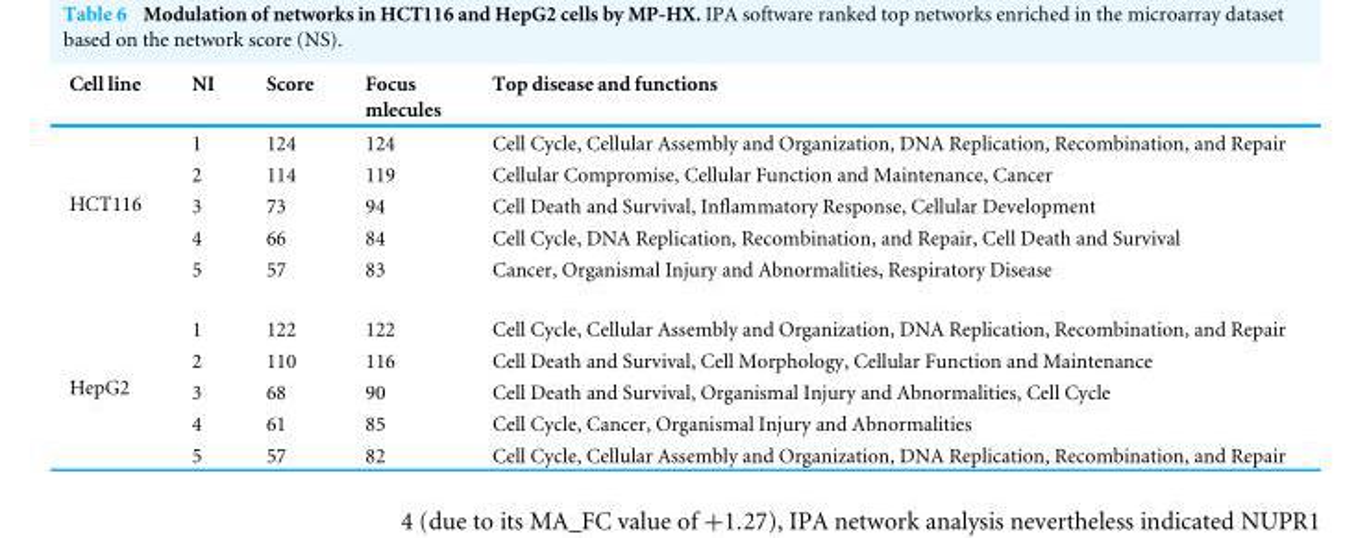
<table><thead><tr><td>Cell line</td><td>NI</td><td>Score</td><td>Focus mlecules</td><td>Top disease and functions</td></tr></thead><tbody><tr><td rowspan="5">HCT116</td><td>1</td><td>124</td><td>124</td><td>Cell Cycle, Cellular Assembly and Organization, DNA Replication, Recombination, and Repair</td></tr><tr><td>2</td><td>114</td><td>119</td><td>Cellular Compromise, Cellular Function and Maintenance, Cancer</td></tr><tr><td>3</td><td>73</td><td>94</td><td>Cell Death and Survival, Inflammatory Response, Cellular Development</td></tr><tr><td>4</td><td>66</td><td>84</td><td>Cell Cycle, DNA Replication, Recombination, and Repair, Cell Death and Survival</td></tr><tr><td>5</td><td>57</td><td>83</td><td>Cancer, Organismal Injury and Abnormalities, Respiratory Disease</td></tr><tr><td rowspan="5">HepG2</td><td>1</td><td>122</td><td>122</td><td>Cell Cycle, Cellular Assembly and Organization, DNA Replication, Recombination, and Repair</td></tr><tr><td>2</td><td>110</td><td>116</td><td>Cell Death and Survival, Cell Morphology, Cellular Function and Maintenance</td></tr><tr><td>3</td><td>68</td><td>90</td><td>Cell Death and Survival, Organismal Injury and Abnormalities, Cell Cycle</td></tr><tr><td>4</td><td>61</td><td>85</td><td>Cell Cycle, Cancer, Organismal Injury and Abnormalities</td></tr><tr><td>5</td><td>57</td><td>82</td><td>Cell Cycle, Cellular Assembly and Organization, DNA Replication, Recombination, and Repair</td></tr></tbody></table>